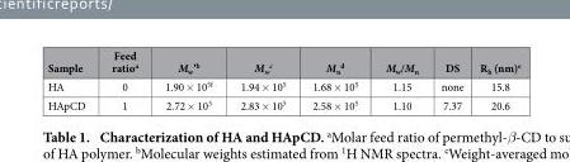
<table><thead><tr><td>Sample</td><td>Feed ratio<sup>a</sup></td><td>M<sub>w</sub>’<sup>b</sup></td><td>M<sub>w</sub> <sup>c</sup></td><td>M<sub>n</sub> <sup>d</sup></td><td>M<sub>w</sub>/M<sub>n</sub></td><td>DS</td><td>R<sub>h</sub> (nm)<sup>e</sup></td></tr></thead><tbody><tr><td>HA</td><td>0</td><td>1.90 × 10<sup>5f</sup></td><td>1.94 × 10<sup>5</sup></td><td>1.68 × 10<sup>5</sup></td><td>1.15</td><td>none</td><td>15.8</td></tr><tr><td>HApCD</td><td>1</td><td>2.72 × 10<sup>5</sup></td><td>2.83 × 10<sup>5</sup></td><td>2.58 × 10<sup>5</sup></td><td>1.10</td><td>7.37</td><td>20.6</td></tr></tbody></table>